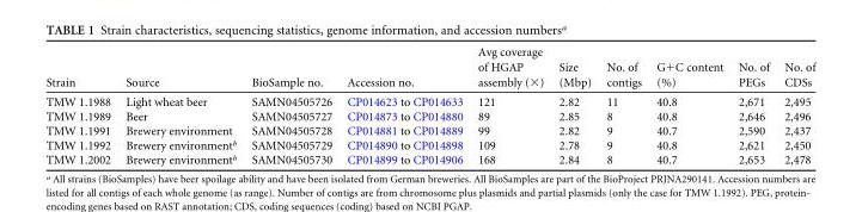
<table><thead><tr><td>Strain</td><td>Source</td><td>BioSample no.</td><td>Accession no.</td><td>Avg coverage of HGAP assembly (×)</td><td>Size (Mbp)</td><td>No. of contigs</td><td>G+C content (%)</td><td>No. of PEGs</td><td>No. of CDSs</td></tr></thead><tbody><tr><td>TMW 1.1988</td><td>Light wheat beer</td><td>SAMN04505726</td><td>CP014623 to CP014633</td><td>121</td><td>2.82</td><td>11</td><td>40.8</td><td>2,671</td><td>2,495</td></tr><tr><td>TMW 1.1989</td><td>Beer</td><td>SAMN04505727</td><td>CP014873 to CP014880</td><td>89</td><td>2.85</td><td>8</td><td>40.8</td><td>2,646</td><td>2,496</td></tr><tr><td>TMW 1.1991</td><td>Brewery environment</td><td>SAMN04505728</td><td>CP014881 to CP014889</td><td>99</td><td>2.82</td><td>9</td><td>40.7</td><td>2,590</td><td>2,437</td></tr><tr><td>TMW 1.1992</td><td>Brewery environment<sup>b</sup></td><td>SAMN04505729</td><td>CP014890 to CP014898</td><td>109</td><td>2.78</td><td>9</td><td>40.8</td><td>2,621</td><td>2,450</td></tr><tr><td>TMW 1.2002</td><td>Brewery environment<sup>b</sup></td><td>SAMN04505730</td><td>CP014899 to CP014906</td><td>168</td><td>2.84</td><td>8</td><td>40.7</td><td>2,653</td><td>2,478</td></tr></tbody></table>